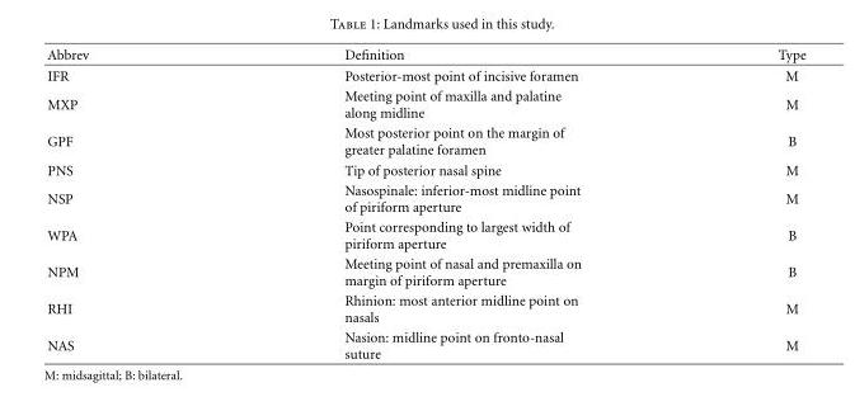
<table><thead><tr><td>Abbrev</td><td>Definition</td><td>Type</td></tr></thead><tbody><tr><td>IFR</td><td>Posterior-most point of incisive foramen</td><td>M</td></tr><tr><td>MXP</td><td>Meeting point of maxilla and palatine along midline</td><td>M</td></tr><tr><td>GPF</td><td>Most posterior point on the margin of greater palatine foramen</td><td>B</td></tr><tr><td>PNS</td><td>Tip of posterior nasal spine</td><td>M</td></tr><tr><td>NSP</td><td>Nasospinale: inferior-most midline point of piriform aperture</td><td>M</td></tr><tr><td>WPA</td><td>Point corresponding to largest width of piriform aperture</td><td>B</td></tr><tr><td>NPM</td><td>Meeting point of nasal and premaxilla on margin of piriform aperture</td><td>B</td></tr><tr><td>RHI</td><td>Rhinion: most anterior midline point on nasals</td><td>M</td></tr><tr><td>NAS</td><td>Nasion: midline point on fronto-nasal suture</td><td>M</td></tr></tbody></table>